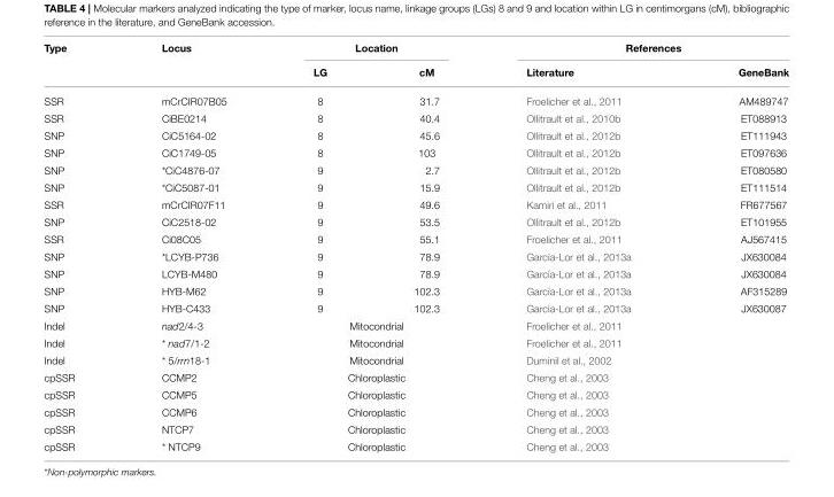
<table><thead><tr><td rowspan="2">Type</td><td rowspan="2">Locus</td><td colspan="2">Location</td><td colspan="2">References</td></tr><tr><td>LG</td><td>cM</td><td>Literature</td><td>GeneBank</td></tr></thead><tbody><tr><td>SSR</td><td>mCrCIR07B05</td><td>8</td><td>31.7</td><td>Froelicher et al., 2011</td><td>AM489747</td></tr><tr><td>SSR</td><td>CiBE0214</td><td>8</td><td>40.4</td><td>Ollitrault et al., 2010b</td><td>ET088913</td></tr><tr><td>SNP</td><td>CiC5164-02</td><td>8</td><td>45.6</td><td>Ollitrault et al., 2012b</td><td>ET111943</td></tr><tr><td>SNP</td><td>CiC1749-05</td><td>8</td><td>103</td><td>Ollitrault et al., 2012b</td><td>ET097636</td></tr><tr><td>SNP</td><td>*CiC4876-07</td><td>9</td><td>2.7</td><td>Ollitrault et al., 2012b</td><td>ET080580</td></tr><tr><td>SNP</td><td>*CiC5087-01</td><td>9</td><td>15.9</td><td>Ollitrault et al., 2012b</td><td>ET111514</td></tr><tr><td>SSR</td><td>mCrCIR07F11</td><td>9</td><td>49.6</td><td>Kamiri et al., 2011</td><td>FR677567</td></tr><tr><td>SNP</td><td>CiC2518-02</td><td>9</td><td>53.5</td><td>Ollitrault et al., 2012b</td><td>ET101955</td></tr><tr><td>SSR</td><td>Ci08C05</td><td>9</td><td>55.1</td><td>Froelicher et al., 2011</td><td>AJ567415</td></tr><tr><td>SNP</td><td>*LCYB-P736</td><td>9</td><td>78.9</td><td>García-Lor et al., 2013a</td><td>JX630084</td></tr><tr><td>SNP</td><td>LCYB-M480</td><td>9</td><td>78.9</td><td>García-Lor et al., 2013a</td><td>JX630084</td></tr><tr><td>SNP</td><td>HYB-M62</td><td>9</td><td>102.3</td><td>García-Lor et al., 2013a</td><td>AF315289</td></tr><tr><td>SNP</td><td>HYB-C433</td><td>9</td><td>102.3</td><td>García-Lor et al., 2013a</td><td>JX630087</td></tr><tr><td>Indel</td><td>nad2/4-3</td><td colspan="2">Mitocondrial</td><td>Froelicher et al., 2011</td><td></td></tr><tr><td>Indel</td><td>* nad7/1-2</td><td colspan="2">Mitocondrial</td><td>Froelicher et al., 2011</td><td></td></tr><tr><td>Indel</td><td>* 5/rrn18-1</td><td colspan="2">Mitocondrial</td><td>Duminil et al., 2002</td><td></td></tr><tr><td>cpSSR</td><td>CCMP2</td><td colspan="2">Chloroplastic</td><td>Cheng et al., 2003</td><td></td></tr><tr><td>cpSSR</td><td>CCMP5</td><td colspan="2">Chloroplastic</td><td>Cheng et al., 2003</td><td></td></tr><tr><td>cpSSR</td><td>CCMP6</td><td colspan="2">Chloroplastic</td><td>Cheng et al., 2003</td><td></td></tr><tr><td>cpSSR</td><td>NTCP7</td><td colspan="2">Chloroplastic</td><td>Cheng et al., 2003</td><td></td></tr><tr><td>cpSSR</td><td>* NTCP9</td><td colspan="2">Chloroplastic</td><td>Cheng et al., 2003</td><td></td></tr></tbody></table>